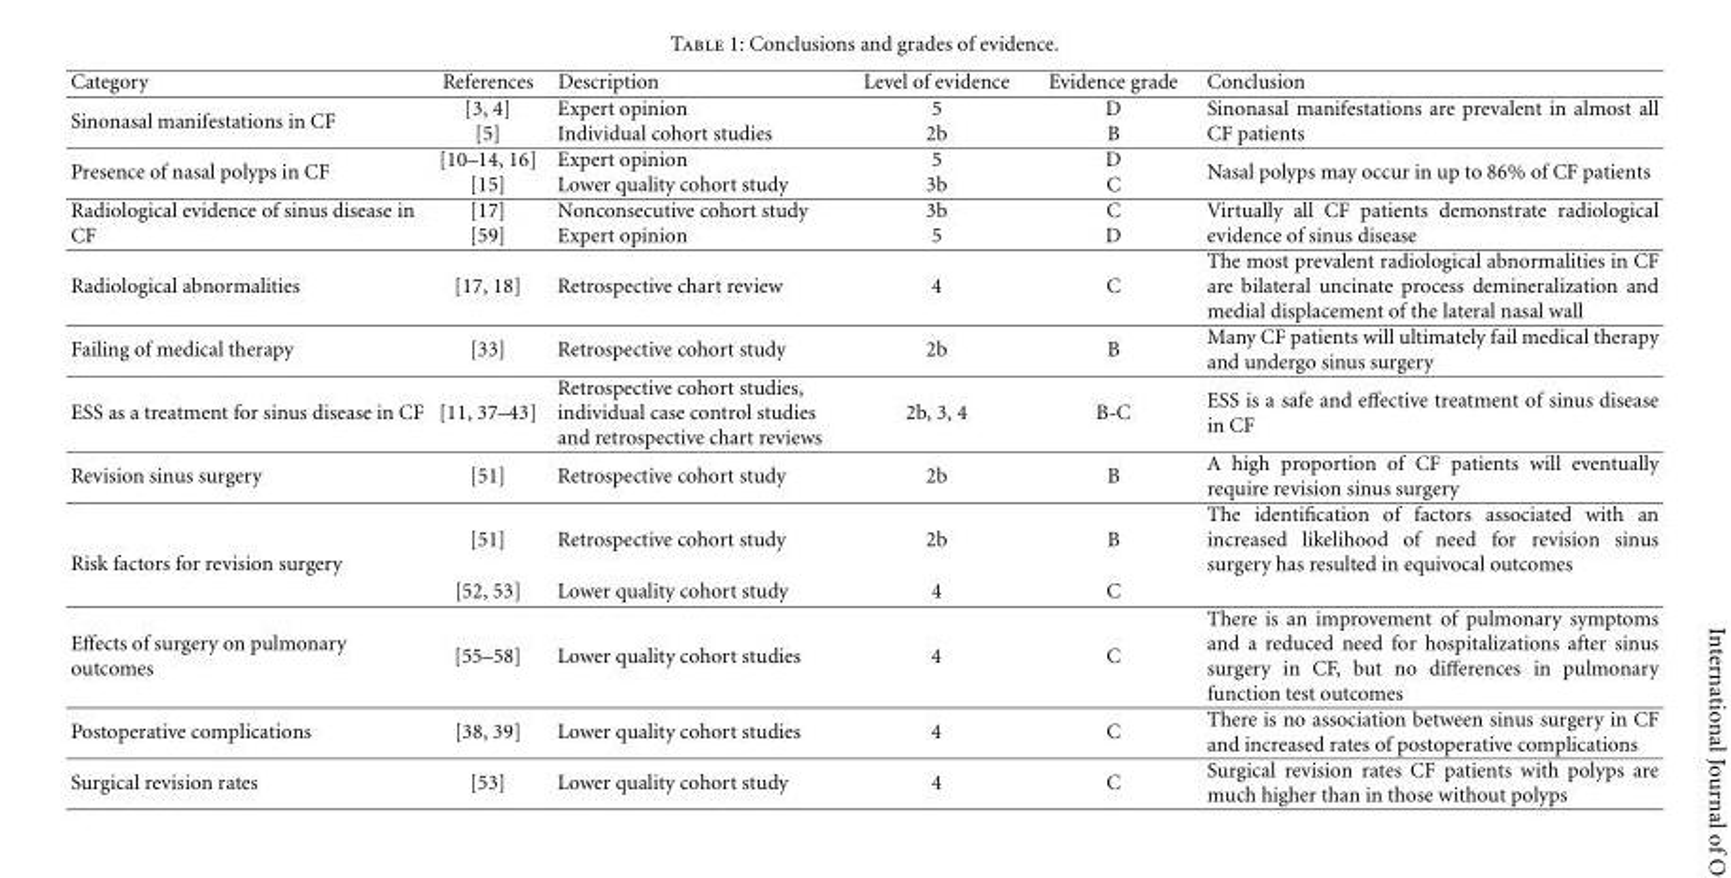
<table><thead><tr><td>Category</td><td>References</td><td>Description</td><td>Level of evidence</td><td>Evidence grade</td><td>Conclusion</td></tr></thead><tbody><tr><td>Sinonasal manifestations in CF</td><td>[3, 4] [5]</td><td>Expert opinion Individual cohort studies</td><td>5 2b</td><td>D B</td><td>Sinonasal manifestations are prevalent in almost all CF patients</td></tr><tr><td>Presence of nasal polyps in CF</td><td>[10–14, 16] [15]</td><td>Expert opinion Lower quality cohort study</td><td>5 3b</td><td>D C</td><td>Nasal polyps may occur in up to 86% of CF patients</td></tr><tr><td>Radiological evidence of sinus disease in CF</td><td>[17] [59]</td><td>Nonconsecutive cohort study Expert opinion</td><td>3b 5</td><td>C D</td><td>Virtually all CF patients demonstrate radiological evidence of sinus disease</td></tr><tr><td>Radiological abnormalities</td><td>[17, 18]</td><td>Retrospective chart review</td><td>4</td><td>C</td><td>The most prevalent radiological abnormalities in CF are bilateral uncinate process demineralization and medial displacement of the lateral nasal wall</td></tr><tr><td>Failing of medical therapy</td><td>[33]</td><td>Retrospective cohort study</td><td>2b</td><td>B</td><td>Many CF patients will ultimately fail medical therapy and undergo sinus surgery</td></tr><tr><td>ESS as a treatment for sinus disease in CF</td><td>[11, 37–43]</td><td>Retrospective cohort studies, individual case control studies and retrospective chart reviews</td><td>2b, 3, 4</td><td>B-C</td><td>ESS is a safe and effective treatment of sinus disease in CF</td></tr><tr><td>Revision sinus surgery</td><td>[51]</td><td>Retrospective cohort study</td><td>2b</td><td>B</td><td>A high proportion of CF patients will eventually require revision sinus surgery</td></tr><tr><td rowspan="2">Risk factors for revision surgery</td><td>[51]</td><td>Retrospective cohort study</td><td>2b</td><td>B</td><td>The identification of factors associated with an increased likelihood of need for revision sinus surgery has resulted in equivocal outcomes</td></tr><tr><td>[52, 53]</td><td>Lower quality cohort study</td><td>4</td><td>C</td><td></td></tr><tr><td>Effects of surgery on pulmonary outcomes</td><td>[55–58]</td><td>Lower quality cohort studies</td><td>4</td><td>C</td><td>There is an improvement of pulmonary symptoms and a reduced need for hospitalizations after sinus surgery in CF, but no differences in pulmonary function test outcomes</td></tr><tr><td>Postoperative complications</td><td>[38, 39]</td><td>Lower quality cohort studies</td><td>4</td><td>C</td><td>There is no association between sinus surgery in CF and increased rates of postoperative complications</td></tr><tr><td>Surgical revision rates</td><td>[53]</td><td>Lower quality cohort study</td><td>4</td><td>C</td><td>Surgical revision rates CF patients with polyps are much higher than in those without polyps</td></tr></tbody></table>